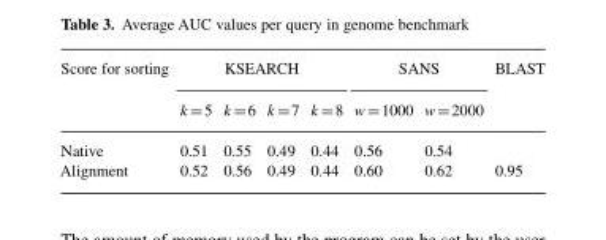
<table><thead><tr><td rowspan="2">Score for sorting</td><td colspan="4">KSEARCH</td><td colspan="2">SANS</td><td rowspan="2">BLAST</td></tr><tr><td>k =5</td><td>k =6</td><td>k =7</td><td>k =8</td><td>w=1000</td><td>w=2000</td></tr></thead><tbody><tr><td>Native</td><td>0.51</td><td>0.55</td><td>0.49</td><td>0.44</td><td>0.56</td><td>0.54</td><td></td></tr><tr><td>Alignment</td><td>0.52</td><td>0.56</td><td>0.49</td><td>0.44</td><td>0.60</td><td>0.62</td><td>0.95</td></tr></tbody></table>